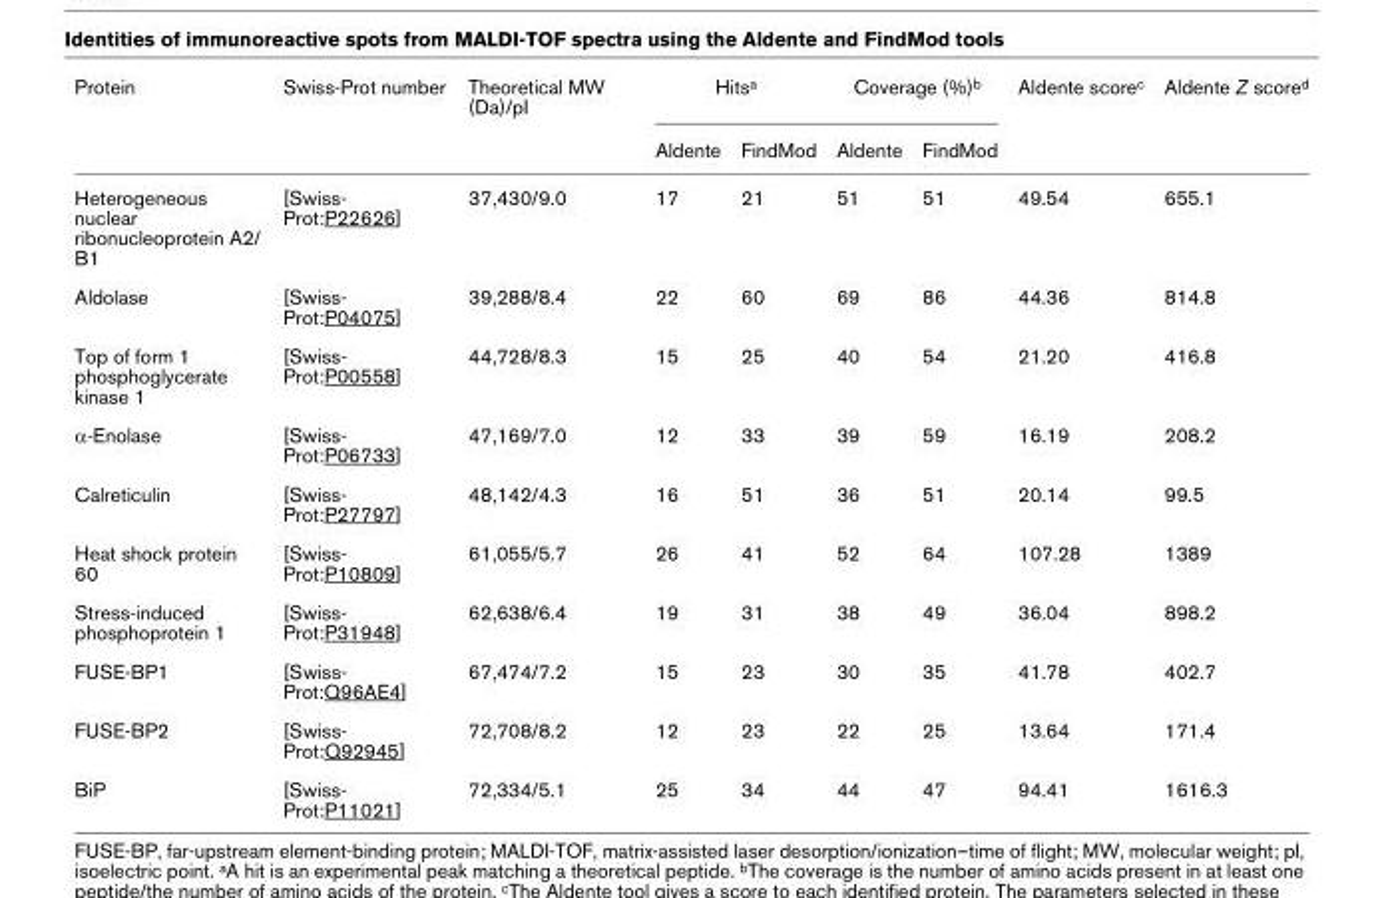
<table><thead><tr><td rowspan="2">Protein</td><td rowspan="2">Swiss-Prot number</td><td rowspan="2">Theoretical MW (Da)/pI</td><td colspan="2">Hits<sup>a</sup></td><td colspan="2">Coverage (%)<sup>b</sup></td><td rowspan="2">Aldente score<sup>c</sup></td><td rowspan="2">Aldente Z score<sup>d</sup></td></tr><tr><td>Aldente</td><td>FindMod</td><td>Aldente</td><td>FindMod</td></tr></thead><tbody><tr><td>Heterogeneous nuclear ribonucleoprotein A2/ B1</td><td>[Swiss- Prot:P22626]</td><td>37,430/9.0</td><td>17</td><td>21</td><td>51</td><td>51</td><td>49.54</td><td>655.1</td></tr><tr><td>Aldolase</td><td>[Swiss- Prot:P04075]</td><td>39,288/8.4</td><td>22</td><td>60</td><td>69</td><td>86</td><td>44.36</td><td>814.8</td></tr><tr><td>Top of form 1 phosphoglycerate kinase 1</td><td>[Swiss- Prot:P00558]</td><td>44,728/8.3</td><td>15</td><td>25</td><td>40</td><td>54</td><td>21.20</td><td>416.8</td></tr><tr><td>α-Enolase</td><td>[Swiss- Prot:P06733]</td><td>47,169/7.0</td><td>12</td><td>33</td><td>39</td><td>59</td><td>16.19</td><td>208.2</td></tr><tr><td>Calreticulin</td><td>[Swiss- Prot:P27797]</td><td>48,142/4.3</td><td>16</td><td>51</td><td>36</td><td>51</td><td>20.14</td><td>99.5</td></tr><tr><td>Heat shock protein 60</td><td>[Swiss- Prot:P10809]</td><td>61,055/5.7</td><td>26</td><td>41</td><td>52</td><td>64</td><td>107.28</td><td>1389</td></tr><tr><td>Stress-induced phosphoprotein 1</td><td>[Swiss- Prot:P31948]</td><td>62,638/6.4</td><td>19</td><td>31</td><td>38</td><td>49</td><td>36.04</td><td>898.2</td></tr><tr><td>FUSE-BP1</td><td>[Swiss- Prot:Q96AE4]</td><td>67,474/7.2</td><td>15</td><td>23</td><td>30</td><td>35</td><td>41.78</td><td>402.7</td></tr><tr><td>FUSE-BP2</td><td>[Swiss- Prot:Q92945]</td><td>72,708/8.2</td><td>12</td><td>23</td><td>22</td><td>25</td><td>13.64</td><td>171.4</td></tr><tr><td>BiP</td><td>[Swiss- Prot:P11021]</td><td>72,334/5.1</td><td>25</td><td>34</td><td>44</td><td>47</td><td>94.41</td><td>1616.3</td></tr></tbody></table>